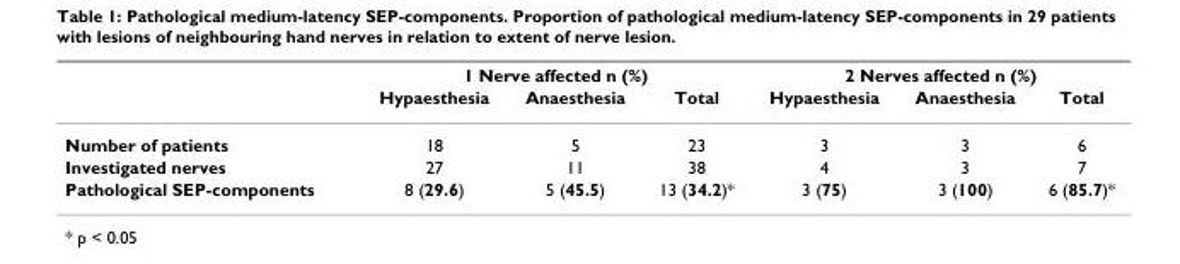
<table><thead><tr><td rowspan="2"></td><td colspan="3">1 Nerve affected n (%)</td><td colspan="3">2 Nerves affected n (%)</td></tr><tr><td>Hypaesthesia</td><td>Anaesthesia</td><td>Total</td><td>Hypaesthesia</td><td>Anaesthesia</td><td>Total</td></tr></thead><tbody><tr><td>Number of patients</td><td>18</td><td>5</td><td>23</td><td>3</td><td>3</td><td>6</td></tr><tr><td>Investigated nerves</td><td>27</td><td>11</td><td>38</td><td>4</td><td>3</td><td>7</td></tr><tr><td>Pathological SEP-components</td><td>8 (29.6)</td><td>5 (45.5)</td><td>13 (34.2)*</td><td>3 (75)</td><td>3 (100)</td><td>6 (85.7)*</td></tr></tbody></table>